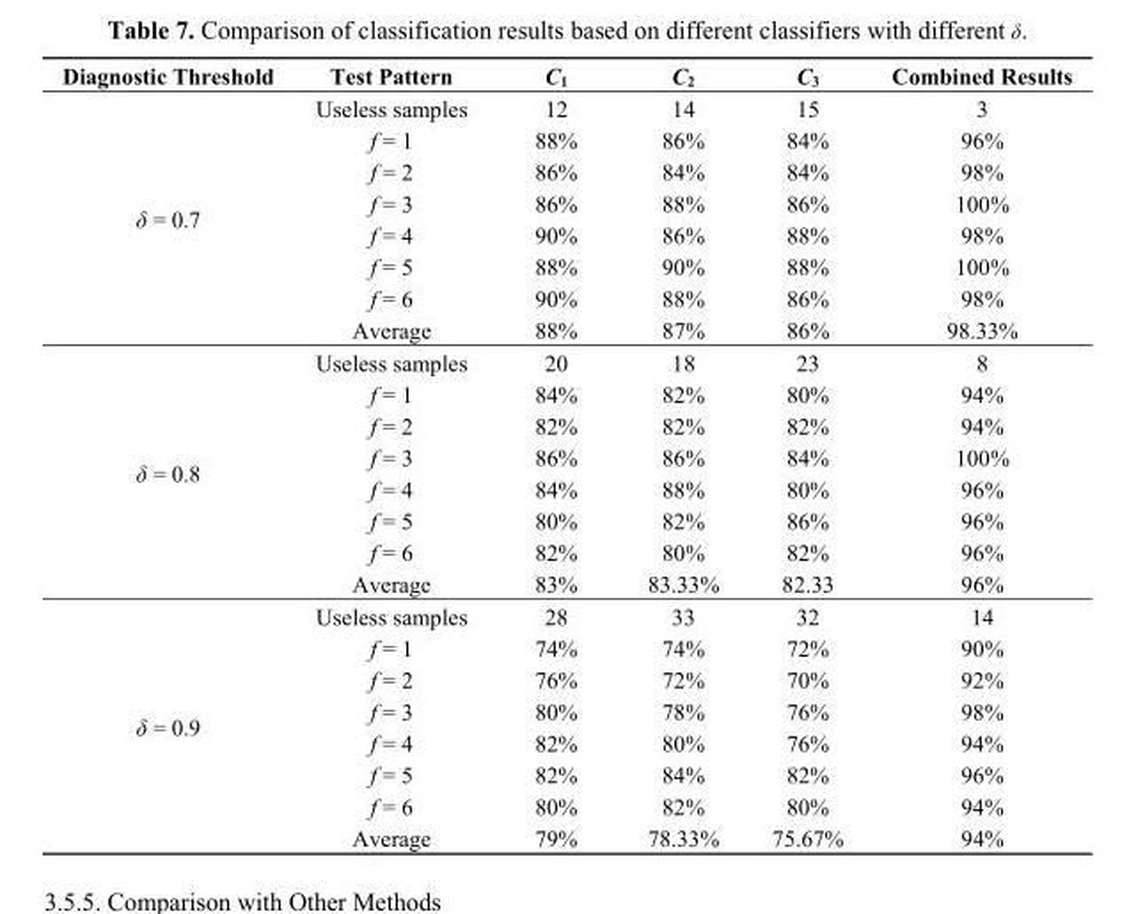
<table><thead><tr><td>Diagnostic Threshold</td><td>Test Pattern</td><td>C<sub>1</sub></td><td>C<sub>2</sub></td><td>C<sub>3</sub></td><td>Combined Results</td></tr></thead><tbody><tr><td rowspan="8">δ = 0.7</td><td>Useless samples</td><td>12</td><td>14</td><td>15</td><td>3</td></tr><tr><td>f = 1</td><td>88%</td><td>86%</td><td>84%</td><td>96%</td></tr><tr><td>f = 2</td><td>86%</td><td>84%</td><td>84%</td><td>98%</td></tr><tr><td>f = 3</td><td>86%</td><td>88%</td><td>86%</td><td>100%</td></tr><tr><td>f = 4</td><td>90%</td><td>86%</td><td>88%</td><td>98%</td></tr><tr><td>f = 5</td><td>88%</td><td>90%</td><td>88%</td><td>100%</td></tr><tr><td>f = 6</td><td>90%</td><td>88%</td><td>86%</td><td>98%</td></tr><tr><td>Average</td><td>88%</td><td>87%</td><td>86%</td><td>98.33%</td></tr><tr><td rowspan="8">δ = 0.8</td><td>Useless samples</td><td>20</td><td>18</td><td>23</td><td>8</td></tr><tr><td>f = 1</td><td>84%</td><td>82%</td><td>80%</td><td>94%</td></tr><tr><td>f = 2</td><td>82%</td><td>82%</td><td>82%</td><td>94%</td></tr><tr><td>f = 3</td><td>86%</td><td>86%</td><td>84%</td><td>100%</td></tr><tr><td>f = 4</td><td>84%</td><td>88%</td><td>80%</td><td>96%</td></tr><tr><td>f = 5</td><td>80%</td><td>82%</td><td>86%</td><td>96%</td></tr><tr><td>f = 6</td><td>82%</td><td>80%</td><td>82%</td><td>96%</td></tr><tr><td>Average</td><td>83%</td><td>83.33%</td><td>82.33</td><td>96%</td></tr><tr><td rowspan="8">δ = 0.9</td><td>Useless samples</td><td>28</td><td>33</td><td>32</td><td>14</td></tr><tr><td>f = 1</td><td>74%</td><td>74%</td><td>72%</td><td>90%</td></tr><tr><td>f = 2</td><td>76%</td><td>72%</td><td>70%</td><td>92%</td></tr><tr><td>f = 3</td><td>80%</td><td>78%</td><td>76%</td><td>98%</td></tr><tr><td>f = 4</td><td>82%</td><td>80%</td><td>76%</td><td>94%</td></tr><tr><td>f = 5</td><td>82%</td><td>84%</td><td>82%</td><td>96%</td></tr><tr><td>f = 6</td><td>80%</td><td>82%</td><td>80%</td><td>94%</td></tr><tr><td>Average</td><td>79%</td><td>78.33%</td><td>75.67%</td><td>94%</td></tr></tbody></table>